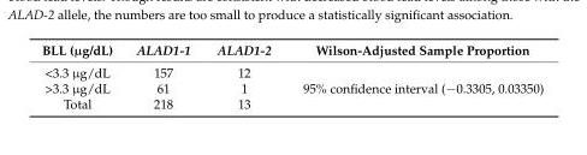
<table><thead><tr><td>BLL (µg/dL)</td><td>ALAD1-1</td><td>ALAD1-2</td><td>Wilson-Adjusted Sample Proportion</td></tr></thead><tbody><tr><td>&lt;3.3 µg/dL</td><td>157</td><td>12</td><td rowspan="3">95% confidence interval (−0.3305, 0.03350)</td></tr><tr><td>&gt;3.3 µg/dL</td><td>61</td><td>1</td></tr><tr><td>Total</td><td>218</td><td>13</td></tr></tbody></table>